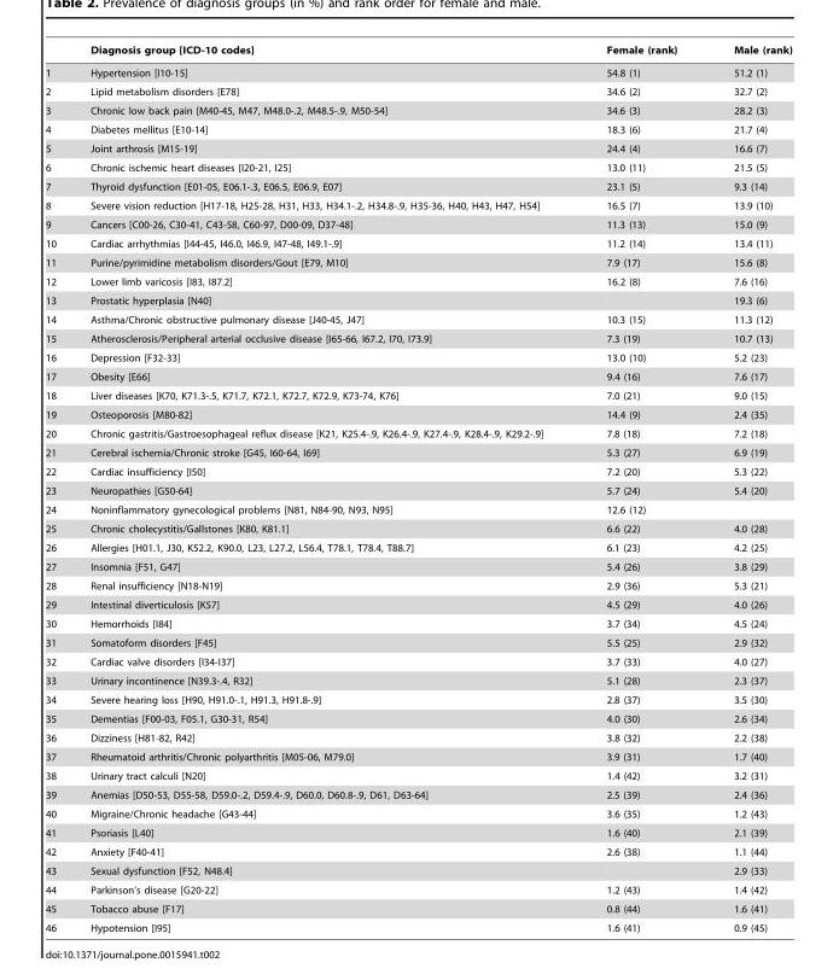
<table><thead><tr><td></td><td>Diagnosis group [ICD-10 codes]</td><td>Female (rank)</td><td>Male (rank)</td></tr></thead><tbody><tr><td>1</td><td>Hypertension [I10-15]</td><td>54.8 (1)</td><td>51.2 (1)</td></tr><tr><td>2</td><td>Lipid metabolism disorders [E78]</td><td>34.6 (2)</td><td>32.7 (2)</td></tr><tr><td>3</td><td>Chronic low back pain [M40-45, M47, M48.0-.2, M48.5-.9, M50-54]</td><td>34.6 (3)</td><td>28.2 (3)</td></tr><tr><td>4</td><td>Diabetes mellitus [E10-14]</td><td>18.3 (6)</td><td>21.7 (4)</td></tr><tr><td>5</td><td>Joint arthrosis [M15-19]</td><td>24.4 (4)</td><td>16.6 (7)</td></tr><tr><td>6</td><td>Chronic ischemic heart diseases [I20-21, I25]</td><td>13.0 (11)</td><td>21.5 (5)</td></tr><tr><td>7</td><td>Thyroid dysfunction [E01-05, E06.1-.3, E06.5, E06.9, E07]</td><td>23.1 (5)</td><td>9.3 (14)</td></tr><tr><td>8</td><td>Severe vision reduction [H17-18, H25-28, H31, H33, H34.1-.2, H34.8-.9, H35-36, H40, H43, H47, H54]</td><td>16.5 (7)</td><td>13.9 (10)</td></tr><tr><td>9</td><td>Cancers [C00-26, C30-41, C43-58, C60-97, D00-09, D37-48]</td><td>11.3 (13)</td><td>15.0 (9)</td></tr><tr><td>10</td><td>Cardiac arrhythmias [I44-45, I46.0, I46.9, I47-48, I49.1-.9]</td><td>11.2 (14)</td><td>13.4 (11)</td></tr><tr><td>11</td><td>Purine/pyrimidine metabolism disorders/Gout [E79, M10]</td><td>7.9 (17)</td><td>15.6 (8)</td></tr><tr><td>12</td><td>Lower limb varicosis [I83, I87.2]</td><td>16.2 (8)</td><td>7.6 (16)</td></tr><tr><td>13</td><td>Prostatic hyperplasia [N40]</td><td></td><td>19.3 (6)</td></tr><tr><td>14</td><td>Asthma/Chronic obstructive pulmonary disease [J40-45, J47]</td><td>10.3 (15)</td><td>11.3 (12)</td></tr><tr><td>15</td><td>Atherosclerosis/Peripheral arterial occlusive disease [I65-66, I67.2, I70, I73.9]</td><td>7.3 (19)</td><td>10.7 (13)</td></tr><tr><td>16</td><td>Depression [F32-33]</td><td>13.0 (10)</td><td>5.2 (23)</td></tr><tr><td>17</td><td>Obesity [E66]</td><td>9.4 (16)</td><td>7.6 (17)</td></tr><tr><td>18</td><td>Liver diseases [K70, K71.3-.5, K71.7, K72.1, K72.7, K72.9, K73-74, K76]</td><td>7.0 (21)</td><td>9.0 (15)</td></tr><tr><td>19</td><td>Osteoporosis [M80-82]</td><td>14.4 (9)</td><td>2.4 (35)</td></tr><tr><td>20</td><td>Chronic gastritis/Gastroesophageal reflux disease [K21, K25.4-.9, K26.4-.9, K27.4-.9, K28.4-.9, K29.2-.9]</td><td>7.8 (18)</td><td>7.2 (18)</td></tr><tr><td>21</td><td>Cerebral ischemia/Chronic stroke [G45, I60-64, I69]</td><td>5.3 (27)</td><td>6.9 (19)</td></tr><tr><td>22</td><td>Cardiac insufficiency [I50]</td><td>7.2 (20)</td><td>5.3 (22)</td></tr><tr><td>23</td><td>Neuropathies [G50-64]</td><td>5.7 (24)</td><td>5.4 (20)</td></tr><tr><td>24</td><td>Noninflammatory gynecological problems [N81, N84-90, N93, N95]</td><td>12.6 (12)</td><td></td></tr><tr><td>25</td><td>Chronic cholecystitis/Gallstones [K80, K81.1]</td><td>6.6 (22)</td><td>4.0 (28)</td></tr><tr><td>26</td><td>Allergies [H01.1, J30, K52.2, K90.0, L23, L27.2, L56.4, T78.1, T78.4, T88.7]</td><td>6.1 (23)</td><td>4.2 (25)</td></tr><tr><td>27</td><td>Insomnia [F51, G47]</td><td>5.4 (26)</td><td>3.8 (29)</td></tr><tr><td>28</td><td>Renal insufficiency [N18-N19]</td><td>2.9 (36)</td><td>5.3 (21)</td></tr><tr><td>29</td><td>Intestinal diverticulosis [K57]</td><td>4.5 (29)</td><td>4.0 (26)</td></tr><tr><td>30</td><td>Hemorrhoids [I84]</td><td>3.7 (34)</td><td>4.5 (24)</td></tr><tr><td>31</td><td>Somatoform disorders [F45]</td><td>5.5 (25)</td><td>2.9 (32)</td></tr><tr><td>32</td><td>Cardiac valve disorders [I34-I37]</td><td>3.7 (33)</td><td>4.0 (27)</td></tr><tr><td>33</td><td>Urinary incontinence [N39.3-.4, R32]</td><td>5.1 (28)</td><td>2.3 (37)</td></tr><tr><td>34</td><td>Severe hearing loss [H90, H91.0-.1, H91.3, H91.8-.9]</td><td>2.8 (37)</td><td>3.5 (30)</td></tr><tr><td>35</td><td>Dementias [F00-03, F05.1, G30-31, R54]</td><td>4.0 (30)</td><td>2.6 (34)</td></tr><tr><td>36</td><td>Dizziness [H81-82, R42]</td><td>3.8 (32)</td><td>2.2 (38)</td></tr><tr><td>37</td><td>Rheumatoid arthritis/Chronic polyarthritis [M05-06, M79.0]</td><td>3.9 (31)</td><td>1.7 (40)</td></tr><tr><td>38</td><td>Urinary tract calculi [N20]</td><td>1.4 (42)</td><td>3.2 (31)</td></tr><tr><td>39</td><td>Anemias [D50-53, D55-58, D59.0-.2, D59.4-.9, D60.0, D60.8-.9, D61, D63-64]</td><td>2.5 (39)</td><td>2.4 (36)</td></tr><tr><td>40</td><td>Migraine/Chronic headache [G43-44]</td><td>3.6 (35)</td><td>1.2 (43)</td></tr><tr><td>41</td><td>Psoriasis [L40]</td><td>1.6 (40)</td><td>2.1 (39)</td></tr><tr><td>42</td><td>Anxiety [F40-41]</td><td>2.6 (38)</td><td>1.1 (44)</td></tr><tr><td>43</td><td>Sexual dysfunction [F52, N48.4]</td><td></td><td>2.9 (33)</td></tr><tr><td>44</td><td>Parkinson’s disease [G20-22]</td><td>1.2 (43)</td><td>1.4 (42)</td></tr><tr><td>45</td><td>Tobacco abuse [F17]</td><td>0.8 (44)</td><td>1.6 (41)</td></tr><tr><td>46</td><td>Hypotension [I95]</td><td>1.6 (41)</td><td>0.9 (45)</td></tr></tbody></table>